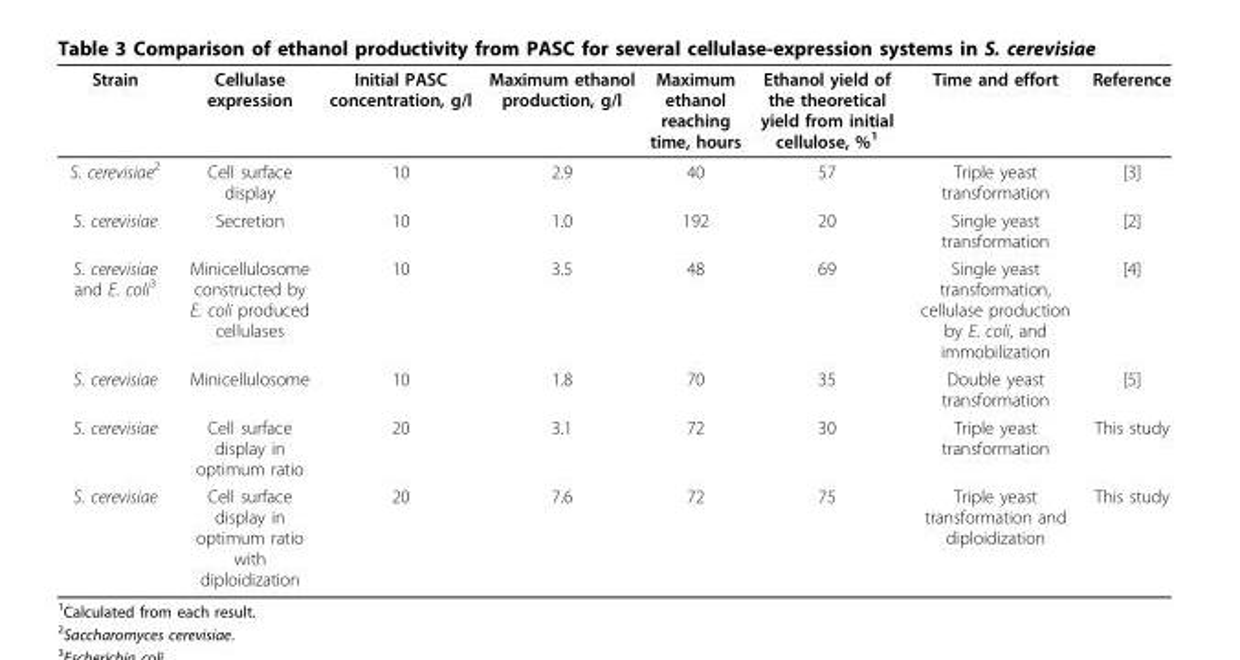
<table><thead><tr><td>Strain</td><td>Cellulase expression</td><td>Initial PASC concentration, g/l</td><td>Maximum ethanol production, g/l</td><td>Maximum ethanol reaching time, hours</td><td>Ethanol yield of the theoretical yield from initial cellulose, %<sup>1</sup></td><td>Time and effort</td><td>Reference</td></tr></thead><tbody><tr><td>S. cerevisiae<sup>2</sup></td><td>Cell surface display</td><td>10</td><td>2.9</td><td>40</td><td>57</td><td>Triple yeast transformation</td><td>[3]</td></tr><tr><td>S. cerevisiae</td><td>Secretion</td><td>10</td><td>1.0</td><td>192</td><td>20</td><td>Single yeast transformation</td><td>[2]</td></tr><tr><td>S. cerevisiae and E. coli<sup>3</sup></td><td>Minicellulosome constructed by E. coli produced cellulases</td><td>10</td><td>3.5</td><td>48</td><td>69</td><td>Single yeast transformation, cellulase production by E. coli, and immobilization</td><td>[4]</td></tr><tr><td>S. cerevisiae</td><td>Minicellulosome</td><td>10</td><td>1.8</td><td>70</td><td>35</td><td>Double yeast transformation</td><td>[5]</td></tr><tr><td>S. cerevisiae</td><td>Cell surface display in optimum ratio</td><td>20</td><td>3.1</td><td>72</td><td>30</td><td>Triple yeast transformation</td><td>This study</td></tr><tr><td>S. cerevisiae</td><td>Cell surface display in optimum ratio with diploidization</td><td>20</td><td>7.6</td><td>72</td><td>75</td><td>Triple yeast transformation and diploidization</td><td>This study</td></tr></tbody></table>